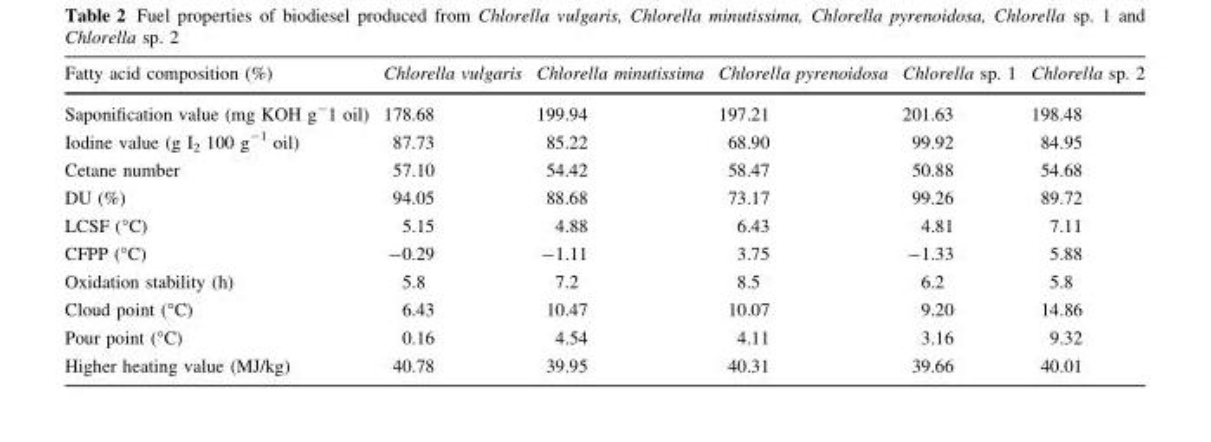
<table><thead><tr><td>Fatty acid composition (%)</td><td>Chlorella vulgaris</td><td>Chlorella minutissima</td><td>Chlorella pyrenoidosa</td><td>Chlorella sp. 1</td><td>Chlorella sp. 2</td></tr></thead><tbody><tr><td>Saponification value (mg KOH g<sup>-</sup>1 oil)</td><td>178.68</td><td>199.94</td><td>197.21</td><td>201.63</td><td>198.48</td></tr><tr><td>Iodine value (g I<sub>2</sub> 100 g<sup>-1</sup> oil)</td><td>87.73</td><td>85.22</td><td>68.90</td><td>99.92</td><td>84.95</td></tr><tr><td>Cetane number</td><td>57.10</td><td>54.42</td><td>58.47</td><td>50.88</td><td>54.68</td></tr><tr><td>DU (%)</td><td>94.05</td><td>88.68</td><td>73.17</td><td>99.26</td><td>89.72</td></tr><tr><td>LCSF (°C)</td><td>5.15</td><td>4.88</td><td>6.43</td><td>4.81</td><td>7.11</td></tr><tr><td>CFPP (°C)</td><td>-0.29</td><td>-1.11</td><td>3.75</td><td>-1.33</td><td>5.88</td></tr><tr><td>Oxidation stability (h)</td><td>5.8</td><td>7.2</td><td>8.5</td><td>6.2</td><td>5.8</td></tr><tr><td>Cloud point (°C)</td><td>6.43</td><td>10.47</td><td>10.07</td><td>9.20</td><td>14.86</td></tr><tr><td>Pour point (°C)</td><td>0.16</td><td>4.54</td><td>4.11</td><td>3.16</td><td>9.32</td></tr><tr><td>Higher heating value (MJ/kg)</td><td>40.78</td><td>39.95</td><td>40.31</td><td>39.66</td><td>40.01</td></tr></tbody></table>